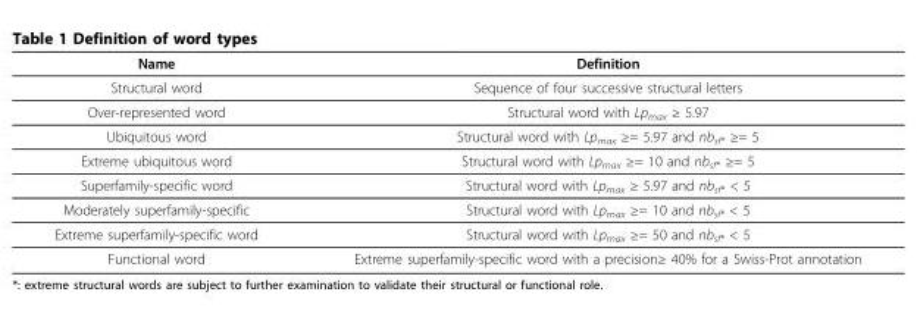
<table><thead><tr><td>Name</td><td>Definition</td></tr></thead><tbody><tr><td>Structural word</td><td>Sequence of four successive structural letters</td></tr><tr><td>Over-represented word</td><td>Structural word with Lp<sub>max</sub> ≥ 5.97</td></tr><tr><td>Ubiquitous word</td><td>Structural word with Lp<sub>max</sub> ≥= 5.97 and nb<sub>sf*</sub> ≥= 5</td></tr><tr><td>Extreme ubiquitous word</td><td>Structural word with Lp<sub>max</sub> ≥= 10 and nb<sub>sf*</sub> ≥= 5</td></tr><tr><td>Superfamily-specific word</td><td>Structural word with Lp<sub>max</sub> ≥ 5.97 and nb<sub>sf*</sub> &lt; 5</td></tr><tr><td>Moderately superfamily-specific</td><td>Structural word with Lp<sub>max</sub> ≥= 10 and nb<sub>sf*</sub> &lt; 5</td></tr><tr><td>Extreme superfamily-specific word</td><td>Structural word with Lp<sub>max</sub> ≥= 50 and nb<sub>sf*</sub> &lt; 5</td></tr><tr><td>Functional word</td><td>Extreme superfamily-specific word with a precision≥ 40% for a Swiss-Prot annotation</td></tr></tbody></table>